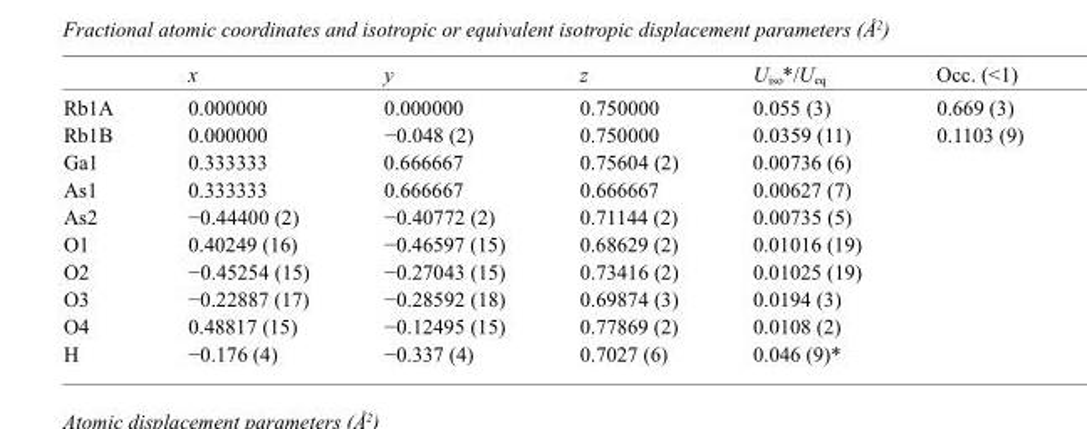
<table><thead><tr><td></td><td>x</td><td>y</td><td>z</td><td>U<sub>iso</sub>*/U<sub>eq</sub></td><td>Occ. (&lt;1)</td></tr></thead><tbody><tr><td>Rb1A</td><td>0.000000</td><td>0.000000</td><td>0.750000</td><td>0.055 (3)</td><td>0.669 (3)</td></tr><tr><td>Rb1B</td><td>0.000000</td><td>−0.048 (2)</td><td>0.750000</td><td>0.0359 (11)</td><td>0.1103 (9)</td></tr><tr><td>Ga1</td><td>0.333333</td><td>0.666667</td><td>0.75604 (2)</td><td>0.00736 (6)</td><td></td></tr><tr><td>As1</td><td>0.333333</td><td>0.666667</td><td>0.666667</td><td>0.00627 (7)</td><td></td></tr><tr><td>As2</td><td>−0.44400 (2)</td><td>−0.40772 (2)</td><td>0.71144 (2)</td><td>0.00735 (5)</td><td></td></tr><tr><td>O1</td><td>0.40249 (16)</td><td>−0.46597 (15)</td><td>0.68629 (2)</td><td>0.01016 (19)</td><td></td></tr><tr><td>O2</td><td>−0.45254 (15)</td><td>−0.27043 (15)</td><td>0.73416 (2)</td><td>0.01025 (19)</td><td></td></tr><tr><td>O3</td><td>−0.22887 (17)</td><td>−0.28592 (18)</td><td>0.69874 (3)</td><td>0.0194 (3)</td><td></td></tr><tr><td>O4</td><td>0.48817 (15)</td><td>−0.12495 (15)</td><td>0.77869 (2)</td><td>0.0108 (2)</td><td></td></tr><tr><td>H</td><td>−0.176 (4)</td><td>−0.337 (4)</td><td>0.7027 (6)</td><td>0.046 (9)*</td><td></td></tr></tbody></table>